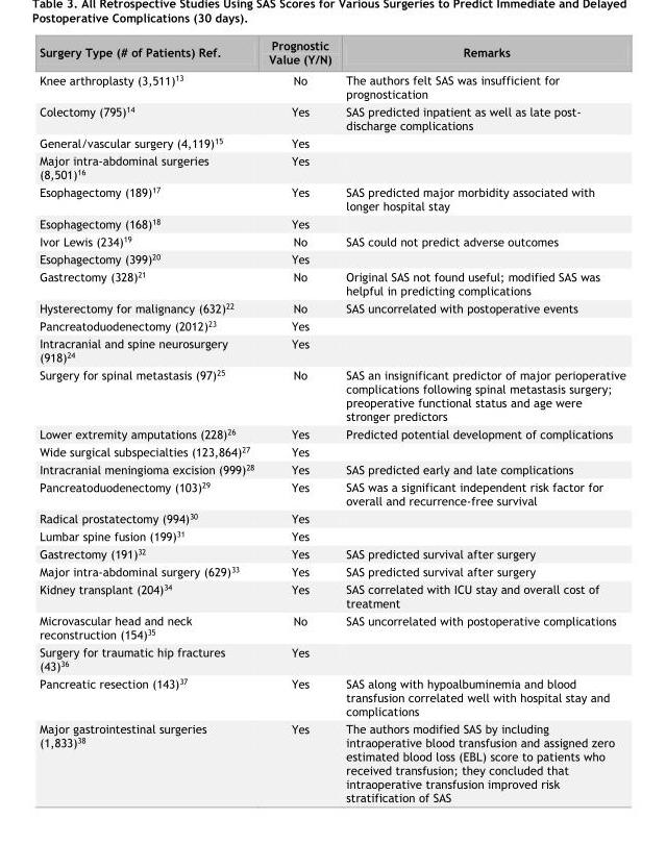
<table><thead><tr><td>Surgery Type (# of Patients) Ref.</td><td>Prognostic Value (Y/N)</td><td>Remarks</td></tr></thead><tbody><tr><td>Knee arthroplasty (3,511)<sup>13</sup></td><td>No</td><td>The authors felt SAS was insufficient for prognostication</td></tr><tr><td>Colectomy (795)<sup>14</sup></td><td>Yes</td><td>SAS predicted inpatient as well as late post- discharge complications</td></tr><tr><td>General/vascular surgery (4,119)<sup>15</sup></td><td>Yes</td><td></td></tr><tr><td>Major intra-abdominal surgeries (8,501)<sup>16</sup></td><td>Yes</td><td></td></tr><tr><td>Esophagectomy (189)<sup>17</sup></td><td>Yes</td><td>SAS predicted major morbidity associated with longer hospital stay</td></tr><tr><td>Esophagectomy (168)<sup>18</sup></td><td>Yes</td><td></td></tr><tr><td>Ivor Lewis (234)<sup>19</sup></td><td>No</td><td>SAS could not predict adverse outcomes</td></tr><tr><td>Esophagectomy (399)<sup>20</sup></td><td>Yes</td><td></td></tr><tr><td>Gastrectomy (328)<sup>21</sup></td><td>No</td><td>Original SAS not found useful; modified SAS was helpful in predicting complications</td></tr><tr><td>Hysterectomy for malignancy (632)<sup>22</sup></td><td>No</td><td>SAS uncorrelated with postoperative events</td></tr><tr><td>Pancreatoduodenectomy (2012)<sup>23</sup></td><td>Yes</td><td></td></tr><tr><td>Intracranial and spine neurosurgery (918)<sup>24</sup></td><td>Yes</td><td></td></tr><tr><td>Surgery for spinal metastasis (97)<sup>25</sup></td><td>No</td><td>SAS an insignificant predictor of major perioperative complications following spinal metastasis surgery; preoperative functional status and age were stronger predictors</td></tr><tr><td>Lower extremity amputations (228)<sup>26</sup></td><td>Yes</td><td>Predicted potential development of complications</td></tr><tr><td>Wide surgical subspecialties (123,864)<sup>27</sup></td><td>Yes</td><td></td></tr><tr><td>Intracranial meningioma excision (999)<sup>28</sup></td><td>Yes</td><td>SAS predicted early and late complications</td></tr><tr><td>Pancreatoduodenectomy (103)<sup>29</sup></td><td>Yes</td><td>SAS was a significant independent risk factor for overall and recurrence-free survival</td></tr><tr><td>Radical prostatectomy (994)<sup>30</sup></td><td>Yes</td><td></td></tr><tr><td>Lumbar spine fusion (199)<sup>31</sup></td><td>Yes</td><td></td></tr><tr><td>Gastrectomy (191)<sup>32</sup></td><td>Yes</td><td>SAS predicted survival after surgery</td></tr><tr><td>Major intra-abdominal surgery (629)<sup>33</sup></td><td>Yes</td><td>SAS predicted survival after surgery</td></tr><tr><td>Kidney transplant (204)<sup>34</sup></td><td>Yes</td><td>SAS correlated with ICU stay and overall cost of treatment</td></tr><tr><td>Microvascular head and neck reconstruction (154)<sup>35</sup></td><td>No</td><td>SAS uncorrelated with postoperative complications</td></tr><tr><td>Surgery for traumatic hip fractures (43)<sup>36</sup></td><td>Yes</td><td></td></tr><tr><td>Pancreatic resection (143)<sup>37</sup></td><td>Yes</td><td>SAS along with hypoalbuminemia and blood transfusion correlated well with hospital stay and complications</td></tr><tr><td>Major gastrointestinal surgeries (1,833)<sup>38</sup></td><td>Yes</td><td>The authors modified SAS by including intraoperative blood transfusion and assigned zero estimated blood loss (EBL) score to patients who received transfusion; they concluded that intraoperative transfusion improved risk stratification of SAS</td></tr></tbody></table>